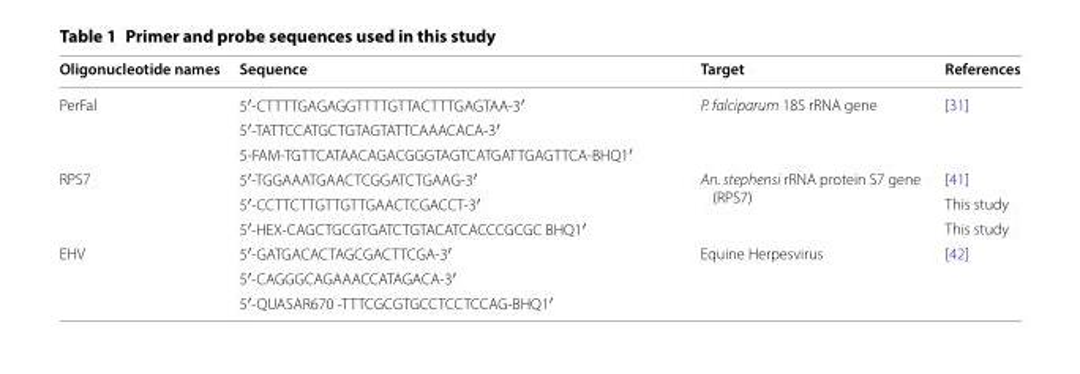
<table><thead><tr><td>Oligonucleotide names</td><td>Sequence</td><td>Target</td><td>References</td></tr></thead><tbody><tr><td rowspan="3">PerFal</td><td>5′-CTT TTG AGA GGT TTT GTT ACT TTG AGTAA-3′</td><td rowspan="3">P. falciparum 18S rRNA gene</td><td rowspan="3">[31]</td></tr><tr><td>5′-TAT TCC ATG CTG TAG TAT TCA AAC ACA-3′</td></tr><tr><td>5-FAM-TGT TCA TAA CAG ACG GGT AGT CAT GAT TGA GTTCA-BHQ1′</td></tr><tr><td rowspan="3">RPS7</td><td>5′-TGG AAA TGA ACT CGG ATC TGAAG-3′</td><td rowspan="3">An. stephensi rRNA protein S7 gene (RPS7)</td><td>[41]</td></tr><tr><td>5′-CCT TCT TGT TGT TGA ACT CGA CCT -3′</td><td>This study</td></tr><tr><td>5′-HEX-CAG CTG CGT GAT CTG TAC ATC ACC CGCGC BHQ1′</td><td>This study</td></tr><tr><td rowspan="3">EHV</td><td>5′-GAT GAC ACT AGC GAC TTC GA-3′</td><td rowspan="3">Equine Herpesvirus</td><td rowspan="3">[42]</td></tr><tr><td>5′-CAG GGC AGA AAC CAT AGA CA-3′</td></tr><tr><td>5′-QUASAR670 -TTT CGC GTG CCT CCT CCA G-BHQ1′</td></tr></tbody></table>